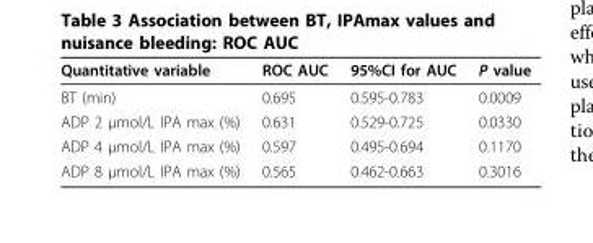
<table><thead><tr><td>Quantitative variable</td><td>ROC AUC</td><td>95%CI for AUC</td><td>P value</td></tr></thead><tbody><tr><td>BT (min)</td><td>0.695</td><td>0.595-0.783</td><td>0.0009</td></tr><tr><td>ADP 2 μmol/L IPA max (%)</td><td>0.631</td><td>0.529-0.725</td><td>0.0330</td></tr><tr><td>ADP 4 μmol/L IPA max (%)</td><td>0.597</td><td>0.495-0.694</td><td>0.1170</td></tr><tr><td>ADP 8 μmol/L IPA max (%)</td><td>0.565</td><td>0.462-0.663</td><td>0.3016</td></tr></tbody></table>